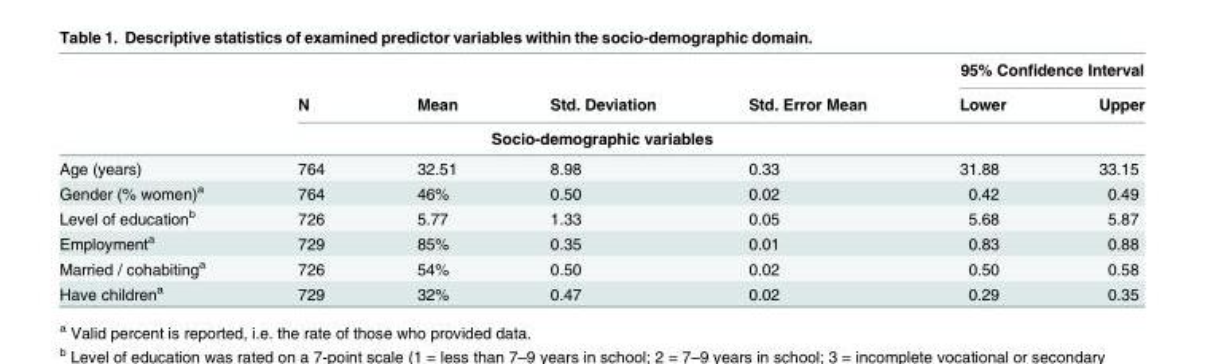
<table><thead><tr><td rowspan="2"></td><td rowspan="2">N</td><td rowspan="2">Mean</td><td rowspan="2">Std. Deviation</td><td rowspan="2">Std. Error Mean</td><td colspan="2">95% Confidence Interval</td></tr><tr><td>Lower</td><td>Upper</td></tr><tr><td colspan="7">Socio-demographic variables</td></tr></thead><tbody><tr><td>Age (years)</td><td>764</td><td>32.51</td><td>8.98</td><td>0.33</td><td>31.88</td><td>33.15</td></tr><tr><td>Gender (% women)<sup>a</sup></td><td>764</td><td>46%</td><td>0.50</td><td>0.02</td><td>0.42</td><td>0.49</td></tr><tr><td>Level of education<sup>b</sup></td><td>726</td><td>5.77</td><td>1.33</td><td>0.05</td><td>5.68</td><td>5.87</td></tr><tr><td>Employment<sup>a</sup></td><td>729</td><td>85%</td><td>0.35</td><td>0.01</td><td>0.83</td><td>0.88</td></tr><tr><td>Married / cohabiting<sup>a</sup></td><td>726</td><td>54%</td><td>0.50</td><td>0.02</td><td>0.50</td><td>0.58</td></tr><tr><td>Have children<sup>a</sup></td><td>729</td><td>32%</td><td>0.47</td><td>0.02</td><td>0.29</td><td>0.35</td></tr></tbody></table>